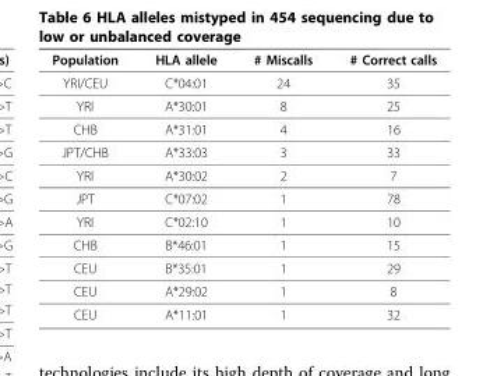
<table><thead><tr><td>Population</td><td>HLA allele</td><td># Miscalls</td><td># Correct calls</td></tr></thead><tbody><tr><td>YRI/CEU</td><td>C*04:01</td><td>24</td><td>35</td></tr><tr><td>YRI</td><td>A*30:01</td><td>8</td><td>25</td></tr><tr><td>CHB</td><td>A*31:01</td><td>4</td><td>16</td></tr><tr><td>JPT/CHB</td><td>A*33:03</td><td>3</td><td>33</td></tr><tr><td>YRI</td><td>A*30:02</td><td>2</td><td>7</td></tr><tr><td>JPT</td><td>C*07:02</td><td>1</td><td>78</td></tr><tr><td>YRI</td><td>C*02:10</td><td>1</td><td>10</td></tr><tr><td>CHB</td><td>B*46:01</td><td>1</td><td>15</td></tr><tr><td>CEU</td><td>B*35:01</td><td>1</td><td>29</td></tr><tr><td>CEU</td><td>A*29:02</td><td>1</td><td>8</td></tr><tr><td>CEU</td><td>A*11:01</td><td>1</td><td>32</td></tr></tbody></table>